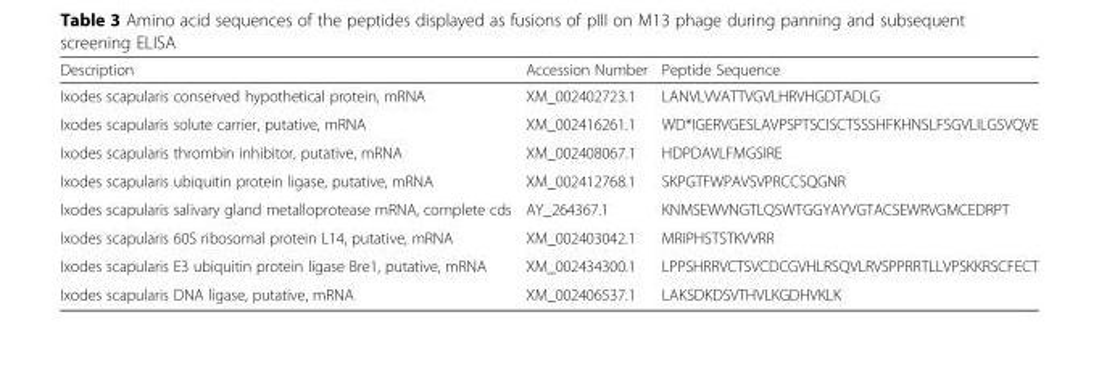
<table><thead><tr><td>Description</td><td>Accession Number</td><td>Peptide Sequence</td></tr></thead><tbody><tr><td>Ixodes scapularis conserved hypothetical protein, mRNA</td><td>XM_002402723.1</td><td>LANVLVVATTVGVLHRVHGDTADLG</td></tr><tr><td>Ixodes scapularis solute carrier, putative, mRNA</td><td>XM_002416261.1</td><td>WD*IGERVGESLAVPSPTSCISCTSSSHFKHNSLFSGVLILGSVQVE</td></tr><tr><td>Ixodes scapularis thrombin inhibitor, putative, mRNA</td><td>XM_002408067.1</td><td>HDPDAVLFMGSIRE</td></tr><tr><td>Ixodes scapularis ubiquitin protein ligase, putative, mRNA</td><td>XM_002412768.1</td><td>SKPGTFWPAVSVPRCCSQGNR</td></tr><tr><td>Ixodes scapularis salivary gland metalloprotease mRNA, complete cds</td><td>AY_264367.1</td><td>KNMSEWVNGTLQSWTGGYAYVGTACSEWRVGMCEDRPT</td></tr><tr><td>Ixodes scapularis 60S ribosomal protein L14, putative, mRNA</td><td>XM_002403042.1</td><td>MRIPHSTSTKVVRR</td></tr><tr><td>Ixodes scapularis E3 ubiquitin protein ligase Bre1, putative, mRNA</td><td>XM_002434300.1</td><td>LPPSHRRVCTSVCDCGVHLRSQVLRVSPPRRTLLVPSKKRSCFECT</td></tr><tr><td>Ixodes scapularis DNA ligase, putative, mRNA</td><td>XM_002406537.1</td><td>LAKSDKDSVTHVLKGDHVKLK</td></tr></tbody></table>